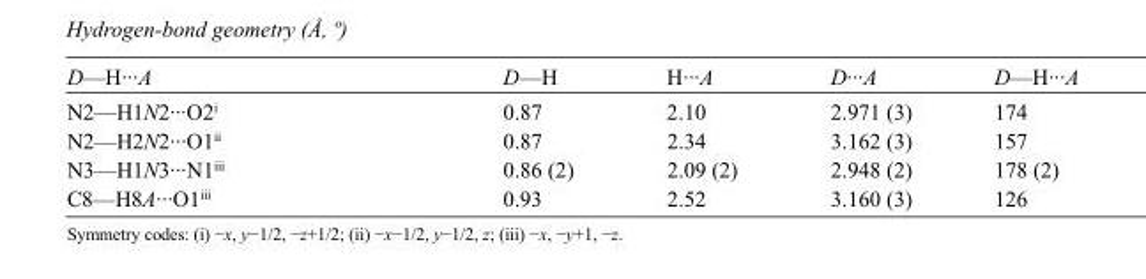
<table><tbody><tr><td>D—H···A</td><td>D—H</td><td>H···A</td><td>D···A</td><td>D—H···A</td></tr><tr><td>N2—H1N2···O2<sup>i</sup></td><td>0.87</td><td>2.10</td><td>2.971 (3)</td><td>174</td></tr><tr><td>N2—H2N2···O1<sup>ii</sup></td><td>0.87</td><td>2.34</td><td>3.162 (3)</td><td>157</td></tr><tr><td>N3—H1N3···N1<sup>iii</sup></td><td>0.86 (2)</td><td>2.09 (2)</td><td>2.948 (2)</td><td>178 (2)</td></tr><tr><td>C8—H8A···O1<sup>iii</sup></td><td>0.93</td><td>2.52</td><td>3.160 (3)</td><td>126</td></tr></tbody></table>